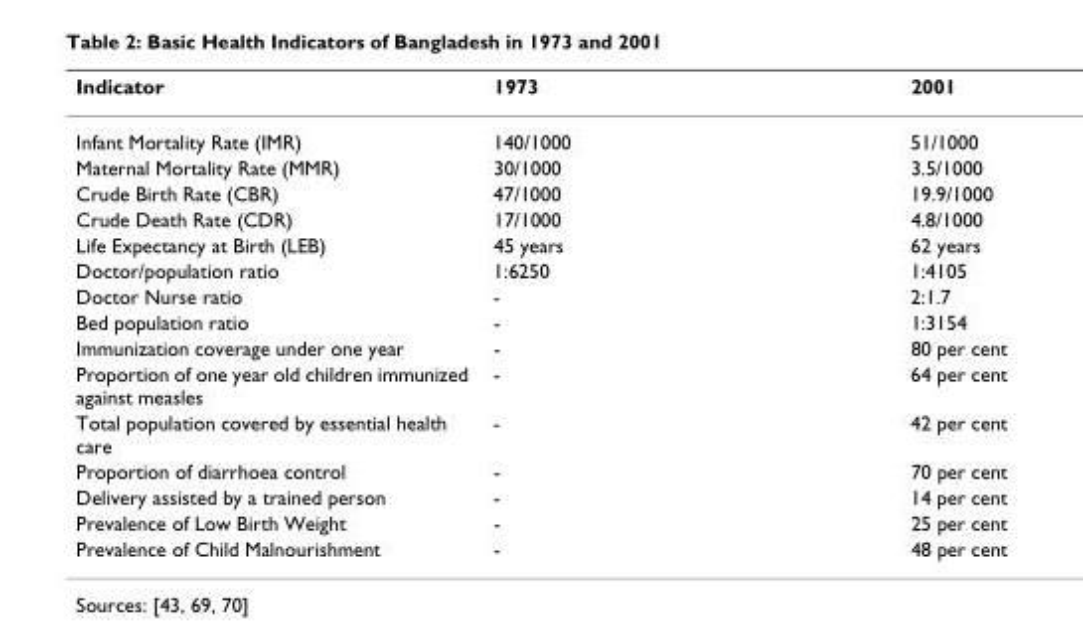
<table><thead><tr><td>Indicator</td><td>1973</td><td>2001</td></tr></thead><tbody><tr><td>Infant Mortality Rate (IMR)</td><td>140/1000</td><td>51/1000</td></tr><tr><td>Maternal Mortality Rate (MMR)</td><td>30/1000</td><td>3.5/1000</td></tr><tr><td>Crude Birth Rate (CBR)</td><td>47/1000</td><td>19.9/1000</td></tr><tr><td>Crude Death Rate (CDR)</td><td>17/1000</td><td>4.8/1000</td></tr><tr><td>Life Expectancy at Birth (LEB)</td><td>45 years</td><td>62 years</td></tr><tr><td>Doctor/population ratio</td><td>1:6250</td><td>1:4105</td></tr><tr><td>Doctor Nurse ratio</td><td>-</td><td>2:1.7</td></tr><tr><td>Bed population ratio</td><td>-</td><td>1:3154</td></tr><tr><td>Immunization coverage under one year</td><td>-</td><td>80 per cent</td></tr><tr><td>Proportion of one year old children immunized against measles</td><td>-</td><td>64 per cent</td></tr><tr><td>Total population covered by essential health care</td><td>-</td><td>42 per cent</td></tr><tr><td>Proportion of diarrhoea control</td><td>-</td><td>70 per cent</td></tr><tr><td>Delivery assisted by a trained person</td><td>-</td><td>14 per cent</td></tr><tr><td>Prevalence of Low Birth Weight</td><td>-</td><td>25 per cent</td></tr><tr><td>Prevalence of Child Malnourishment</td><td>-</td><td>48 per cent</td></tr></tbody></table>